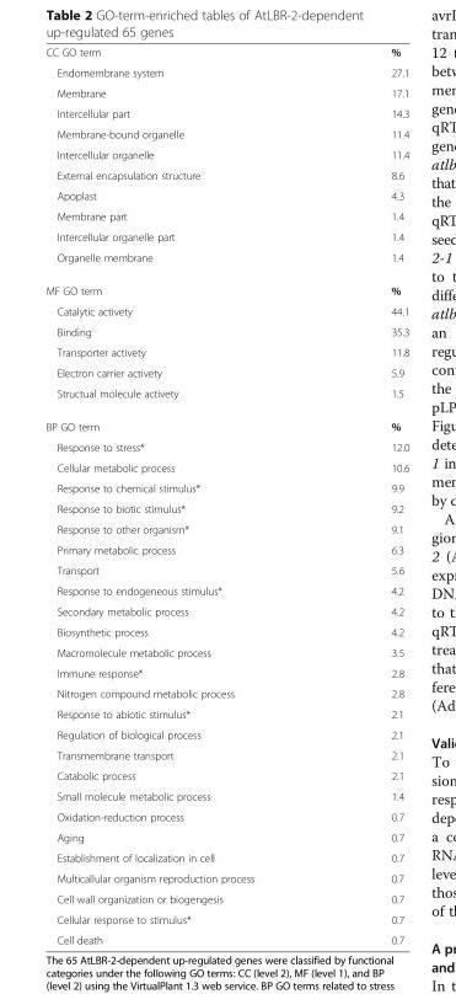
<table><tbody><tr><td>CC GO term</td><td>%</td></tr><tr><td>Endomembrane system</td><td>27.1</td></tr><tr><td>Membrane</td><td>17.1</td></tr><tr><td>Intercellular part</td><td>14.3</td></tr><tr><td>Membrane-bound organelle</td><td>11.4</td></tr><tr><td>Intercellular organelle</td><td>11.4</td></tr><tr><td>External encapsulation structure</td><td>8.6</td></tr><tr><td>Apoplast</td><td>4.3</td></tr><tr><td>Membrane part</td><td>1.4</td></tr><tr><td>Intercellular organelle part</td><td>1.4</td></tr><tr><td>Organelle membrane</td><td>1.4</td></tr><tr><td>MF GO term</td><td>%</td></tr><tr><td>Catalytic activety</td><td>44.1</td></tr><tr><td>Binding</td><td>35.3</td></tr><tr><td>Transporter activety</td><td>11.8</td></tr><tr><td>Electron carrier activety</td><td>5.9</td></tr><tr><td>Structual molecule activety</td><td>1.5</td></tr><tr><td>BP GO term</td><td>%</td></tr><tr><td>Response to stress*</td><td>12.0</td></tr><tr><td>Cellular metabolic process</td><td>10.6</td></tr><tr><td>Response to chemical stimulus*</td><td>9.9</td></tr><tr><td>Response to biotic stimulus*</td><td>9.2</td></tr><tr><td>Response to other organism*</td><td>9.1</td></tr><tr><td>Primary metabolic process</td><td>6.3</td></tr><tr><td>Transport</td><td>5.6</td></tr><tr><td>Response to endogeneous stimulus*</td><td>4.2</td></tr><tr><td>Secondary metabolic process</td><td>4.2</td></tr><tr><td>Biosynthetic process</td><td>4.2</td></tr><tr><td>Macromolecule metabolic process</td><td>3.5</td></tr><tr><td>Immune response*</td><td>2.8</td></tr><tr><td>Nitrogen compound metabolic process</td><td>2.8</td></tr><tr><td>Response to abiotic stimulus*</td><td>2.1</td></tr><tr><td>Regulation of biological process</td><td>2.1</td></tr><tr><td>Transmembrane transport</td><td>2.1</td></tr><tr><td>Catabolic process</td><td>2.1</td></tr><tr><td>Small molecule metabolic process</td><td>1.4</td></tr><tr><td>Oxidation-reduction process</td><td>0.7</td></tr><tr><td>Aging</td><td>0.7</td></tr><tr><td>Establishment of localization in cell</td><td>0.7</td></tr><tr><td>Multicallular organism reproduction process</td><td>0.7</td></tr><tr><td>Cell wall organization or biogengesis</td><td>0.7</td></tr><tr><td>Cellular response to stimulus*</td><td>0.7</td></tr><tr><td>Cell death</td><td>0.7</td></tr></tbody></table>